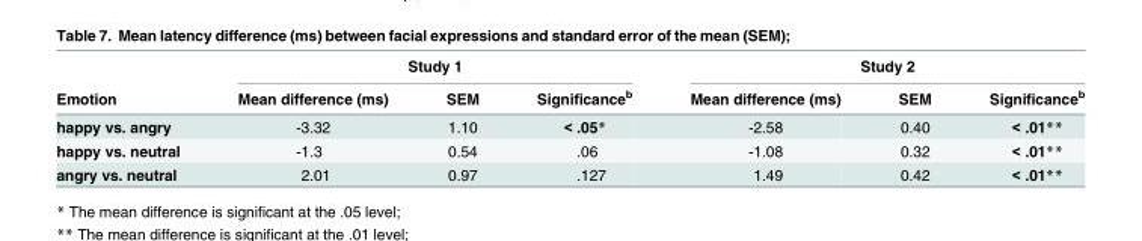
<table><thead><tr><td rowspan="2">Emotion</td><td colspan="3">Study 1</td><td colspan="3">Study 2</td></tr><tr><td>Mean difference (ms)</td><td>SEM</td><td>Significance<sup>b</sup></td><td>Mean difference (ms)</td><td>SEM</td><td>Significance<sup>b</sup></td></tr></thead><tbody><tr><td>happy vs. angry</td><td>-3.32</td><td>1.10</td><td>&lt; .05*</td><td>-2.58</td><td>0.40</td><td>&lt; .01**</td></tr><tr><td>happy vs. neutral</td><td>-1.3</td><td>0.54</td><td>.06</td><td>-1.08</td><td>0.32</td><td>&lt; .01**</td></tr><tr><td>angry vs. neutral</td><td>2.01</td><td>0.97</td><td>.127</td><td>1.49</td><td>0.42</td><td>&lt; .01**</td></tr></tbody></table>